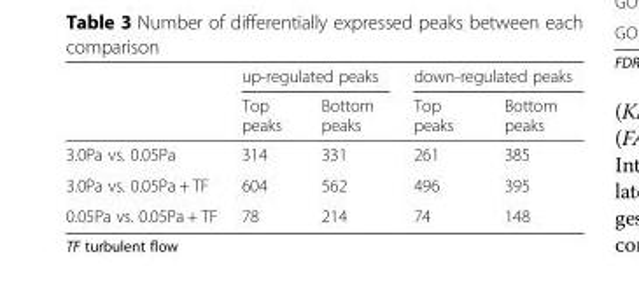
<table><thead><tr><td rowspan="2"></td><td colspan="2">up-regulated peaks</td><td colspan="2">down-regulated peaks</td></tr><tr><td>Top peaks</td><td>Bottom peaks</td><td>Top peaks</td><td>Bottom peaks</td></tr></thead><tbody><tr><td>3.0Pa vs. 0.05Pa</td><td>314</td><td>331</td><td>261</td><td>385</td></tr><tr><td>3.0Pa vs. 0.05Pa + TF</td><td>604</td><td>562</td><td>496</td><td>395</td></tr><tr><td>0.05Pa vs. 0.05Pa + TF</td><td>78</td><td>214</td><td>74</td><td>148</td></tr></tbody></table>